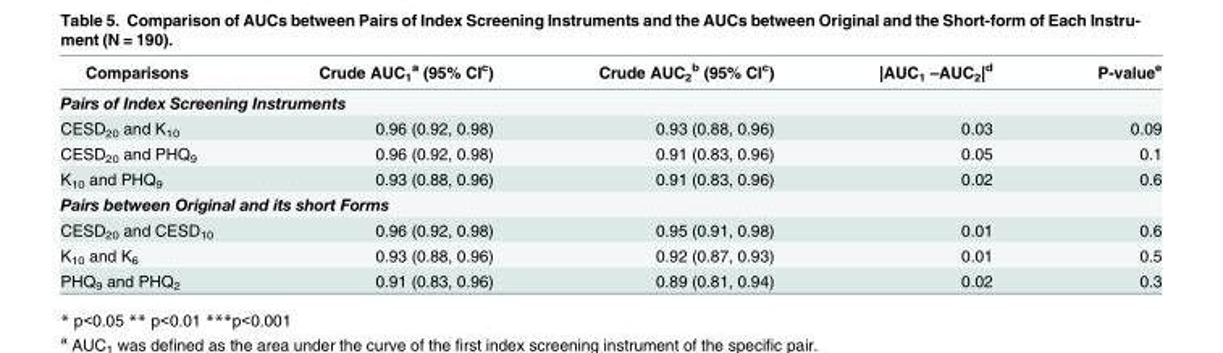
<table><thead><tr><td>Comparisons</td><td>Crude AUC<sub>1</sub> <sup>a</sup> (95% CI<sup>c</sup>)</td><td>Crude AUC<sub>2</sub> <sup>b</sup> (95% CI<sup>c</sup>)</td><td>|AUC<sub>1</sub> –AUC<sub>2</sub>|<sup>d</sup></td><td>P-value<sup>e</sup></td></tr></thead><tbody><tr><td colspan="5">Pairs of Index Screening Instruments</td></tr><tr><td>CESD<sub>20</sub> and K<sub>10</sub></td><td>0.96 (0.92, 0.98)</td><td>0.93 (0.88, 0.96)</td><td>0.03</td><td>0.09</td></tr><tr><td>CESD<sub>20</sub> and PHQ<sub>9</sub></td><td>0.96 (0.92, 0.98)</td><td>0.91 (0.83, 0.96)</td><td>0.05</td><td>0.1</td></tr><tr><td>K<sub>10</sub> and PHQ<sub>9</sub></td><td>0.93 (0.88, 0.96)</td><td>0.91 (0.83, 0.96)</td><td>0.02</td><td>0.6</td></tr><tr><td colspan="5">Pairs between Original and its short Forms</td></tr><tr><td>CESD<sub>20</sub> and CESD<sub>10</sub></td><td>0.96 (0.92, 0.98)</td><td>0.95 (0.91, 0.98)</td><td>0.01</td><td>0.6</td></tr><tr><td>K<sub>10</sub> and K<sub>6</sub></td><td>0.93 (0.88, 0.96)</td><td>0.92 (0.87, 0.93)</td><td>0.01</td><td>0.5</td></tr><tr><td>PHQ<sub>9</sub> and PHQ<sub>2</sub></td><td>0.91 (0.83, 0.96)</td><td>0.89 (0.81, 0.94)</td><td>0.02</td><td>0.3</td></tr></tbody></table>